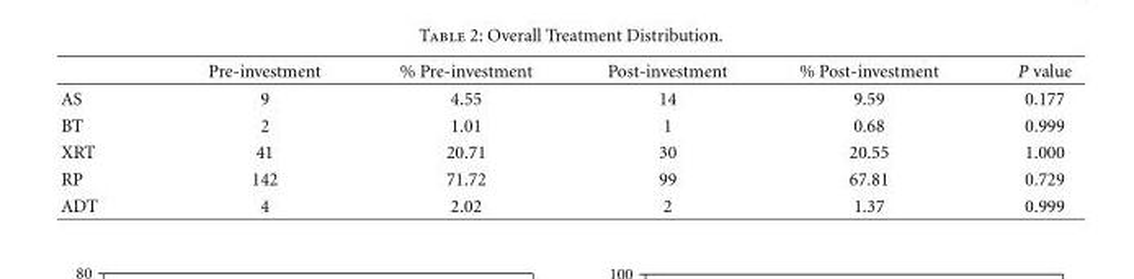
<table><thead><tr><td></td><td>Pre-investment</td><td>% Pre-investment</td><td>Post-investment</td><td>% Post-investment</td><td>P value</td></tr></thead><tbody><tr><td>AS</td><td>9</td><td>4.55</td><td>14</td><td>9.59</td><td>0.177</td></tr><tr><td>BT</td><td>2</td><td>1.01</td><td>1</td><td>0.68</td><td>0.999</td></tr><tr><td>XRT</td><td>41</td><td>20.71</td><td>30</td><td>20.55</td><td>1.000</td></tr><tr><td>RP</td><td>142</td><td>71.72</td><td>99</td><td>67.81</td><td>0.729</td></tr><tr><td>ADT</td><td>4</td><td>2.02</td><td>2</td><td>1.37</td><td>0.999</td></tr></tbody></table>